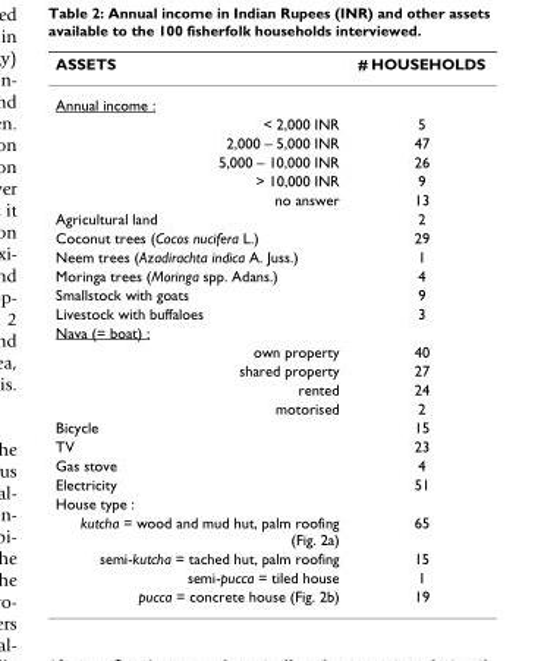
<table><thead><tr><td>ASSETS</td><td># HOUSEHOLDS</td></tr></thead><tbody><tr><td colspan="2">Annual income :</td></tr><tr><td>&lt; 2,000 INR</td><td>5</td></tr><tr><td>2,000 – 5,000 INR</td><td>47</td></tr><tr><td>5,000 – 10,000 INR</td><td>26</td></tr><tr><td>&gt; 10,000 INR</td><td>9</td></tr><tr><td>no answer</td><td>13</td></tr><tr><td>Agricultural land</td><td>2</td></tr><tr><td>Coconut trees (Cocos nucifera L.)</td><td>29</td></tr><tr><td>Neem trees (Azadirachta indica A. Juss.)</td><td>1</td></tr><tr><td>Moringa trees (Moringa spp. Adans.)</td><td>4</td></tr><tr><td>Smallstock with goats</td><td>9</td></tr><tr><td>Livestock with buffaloes</td><td>3</td></tr><tr><td colspan="2">Nava (= boat) :</td></tr><tr><td>own property</td><td>40</td></tr><tr><td>shared property</td><td>27</td></tr><tr><td>rented</td><td>24</td></tr><tr><td>motorised</td><td>2</td></tr><tr><td>Bicycle</td><td>15</td></tr><tr><td>TV</td><td>23</td></tr><tr><td>Gas stove</td><td>4</td></tr><tr><td>Electricity</td><td>51</td></tr><tr><td colspan="2">House type :</td></tr><tr><td>kutcha = wood and mud hut, palm roofing (Fig. 2a)</td><td>65</td></tr><tr><td>semi-kutcha = tached hut, palm roofing</td><td>15</td></tr><tr><td>semi-pucca = tiled house</td><td>1</td></tr><tr><td>pucca = concrete house (Fig. 2b)</td><td>19</td></tr></tbody></table>